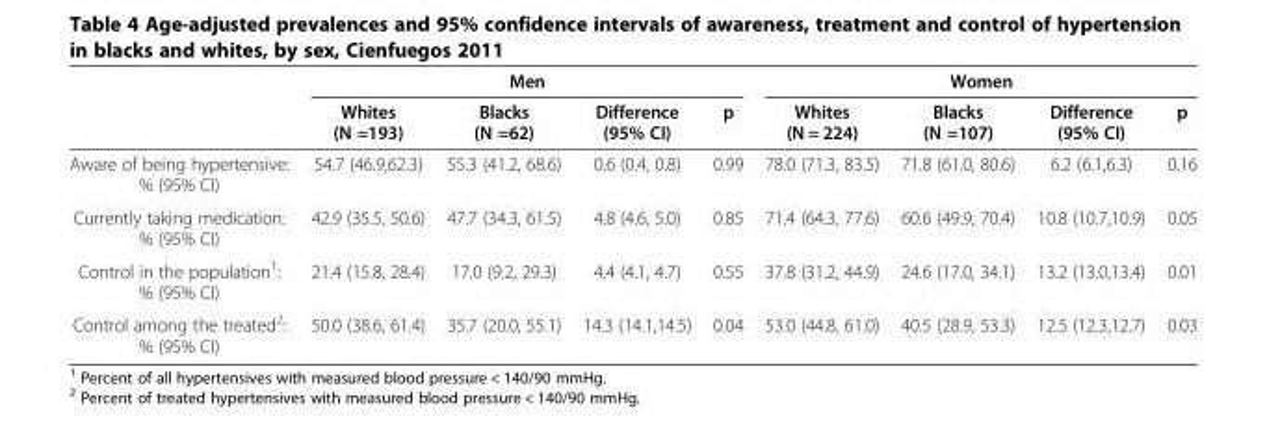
<table><thead><tr><td rowspan="2"></td><td colspan="4">Men</td><td colspan="4">Women</td></tr><tr><td>Whites (N =193)</td><td>Blacks (N =62)</td><td>Difference (95% CI)</td><td>p</td><td>Whites (N = 224)</td><td>Blacks (N =107)</td><td>Difference (95% CI)</td><td>p</td></tr></thead><tbody><tr><td>Aware of being hypertensive: % (95% CI)</td><td>54.7 (46.9,62.3)</td><td>55.3 (41.2, 68.6)</td><td>0.6 (0.4, 0.8)</td><td>0.99</td><td>78.0 (71.3, 83.5)</td><td>71.8 (61.0, 80.6)</td><td>6.2 (6.1,6.3)</td><td>0.16</td></tr><tr><td>Currently taking medication: % (95% CI)</td><td>42.9 (35.5, 50.6)</td><td>47.7 (34.3, 61.5)</td><td>4.8 (4.6, 5.0)</td><td>0.85</td><td>71.4 (64.3, 77.6)</td><td>60.6 (49.9, 70.4)</td><td>10.8 (10.7,10.9)</td><td>0.05</td></tr><tr><td>Control in the population<sup>1</sup>: % (95% CI)</td><td>21.4 (15.8, 28.4)</td><td>17.0 (9.2, 29.3)</td><td>4.4 (4.1, 4.7)</td><td>0.55</td><td>37.8 (31.2, 44.9)</td><td>24.6 (17.0, 34.1)</td><td>13.2 (13.0,13.4)</td><td>0.01</td></tr><tr><td>Control among the treated<sup>2</sup>: % (95% CI)</td><td>50.0 (38.6, 61.4)</td><td>35.7 (20.0, 55.1)</td><td>14.3 (14.1,14.5)</td><td>0.04</td><td>53.0 (44.8, 61.0)</td><td>40.5 (28.9, 53.3)</td><td>12.5 (12.3,12.7)</td><td>0.03</td></tr></tbody></table>